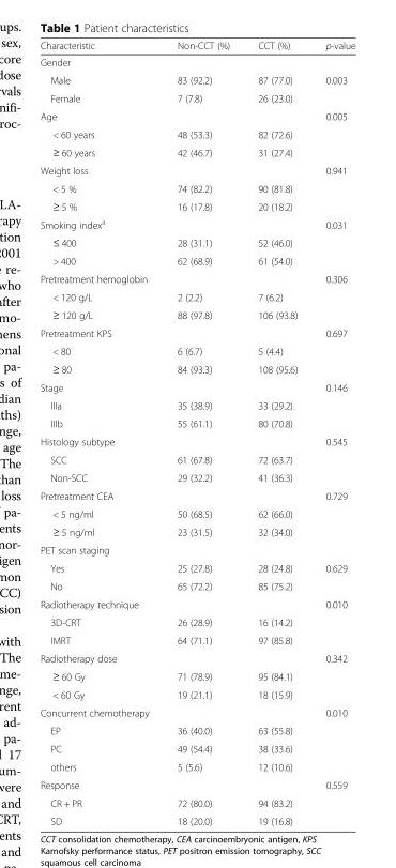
<table><thead><tr><td>Characteristic</td><td>Non-CCT (%)</td><td>CCT (%)</td><td>p-value</td></tr></thead><tbody><tr><td colspan="4">Gender</td></tr><tr><td>Male</td><td>83 (92.2)</td><td>87 (77.0)</td><td>0.003</td></tr><tr><td>Female</td><td>7 (7.8)</td><td>26 (23.0)</td><td></td></tr><tr><td>Age</td><td></td><td></td><td>0.005</td></tr><tr><td>&lt; 60 years</td><td>48 (53.3)</td><td>82 (72.6)</td><td></td></tr><tr><td>≥ 60 years</td><td>42 (46.7)</td><td>31 (27.4)</td><td></td></tr><tr><td>Weight loss</td><td></td><td></td><td>0.941</td></tr><tr><td>&lt; 5 %</td><td>74 (82.2)</td><td>90 (81.8)</td><td></td></tr><tr><td>≥ 5 %</td><td>16 (17.8)</td><td>20 (18.2)</td><td></td></tr><tr><td>Smoking index<sup>a</sup></td><td></td><td></td><td>0.031</td></tr><tr><td>≤ 400</td><td>28 (31.1)</td><td>52 (46.0)</td><td></td></tr><tr><td>&gt; 400</td><td>62 (68.9)</td><td>61 (54.0)</td><td></td></tr><tr><td>Pretreatment hemoglobin</td><td></td><td></td><td>0.306</td></tr><tr><td>&lt; 120 g/L</td><td>2 (2.2)</td><td>7 (6.2)</td><td></td></tr><tr><td>≥ 120 g/L</td><td>88 (97.8)</td><td>106 (93.8)</td><td></td></tr><tr><td>Pretreatment KPS</td><td></td><td></td><td>0.697</td></tr><tr><td>&lt; 80</td><td>6 (6.7)</td><td>5 (4.4)</td><td></td></tr><tr><td>≥ 80</td><td>84 (93.3)</td><td>108 (95.6)</td><td></td></tr><tr><td>Stage</td><td></td><td></td><td>0.146</td></tr><tr><td>IIIa</td><td>35 (38.9)</td><td>33 (29.2)</td><td></td></tr><tr><td>IIIb</td><td>55 (61.1)</td><td>80 (70.8)</td><td></td></tr><tr><td>Histology subtype</td><td></td><td></td><td>0.545</td></tr><tr><td>SCC</td><td>61 (67.8)</td><td>72 (63.7)</td><td></td></tr><tr><td>Non-SCC</td><td>29 (32.2)</td><td>41 (36.3)</td><td></td></tr><tr><td>Pretreatment CEA</td><td></td><td></td><td>0.729</td></tr><tr><td>&lt; 5 ng/ml</td><td>50 (68.5)</td><td>62 (66.0)</td><td></td></tr><tr><td>≥ 5 ng/ml</td><td>23 (31.5)</td><td>32 (34.0)</td><td></td></tr><tr><td colspan="4">PET scan staging</td></tr><tr><td>Yes</td><td>25 (27.8)</td><td>28 (24.8)</td><td>0.629</td></tr><tr><td>No</td><td>65 (72.2)</td><td>85 (75.2)</td><td></td></tr><tr><td>Radiotherapy technique</td><td></td><td></td><td>0.010</td></tr><tr><td>3D-CRT</td><td>26 (28.9)</td><td>16 (14.2)</td><td></td></tr><tr><td>IMRT</td><td>64 (71.1)</td><td>97 (85.8)</td><td></td></tr><tr><td>Radiotherapy dose</td><td></td><td></td><td>0.342</td></tr><tr><td>≥ 60 Gy</td><td>71 (78.9)</td><td>95 (84.1)</td><td></td></tr><tr><td>&lt; 60 Gy</td><td>19 (21.1)</td><td>18 (15.9)</td><td></td></tr><tr><td>Concurrent chemotherapy</td><td></td><td></td><td>0.010</td></tr><tr><td>EP</td><td>36 (40.0)</td><td>63 (55.8)</td><td></td></tr><tr><td>PC</td><td>49 (54.4)</td><td>38 (33.6)</td><td></td></tr><tr><td>others</td><td>5 (5.6)</td><td>12 (10.6)</td><td></td></tr><tr><td>Response</td><td></td><td></td><td>0.559</td></tr><tr><td>CR + PR</td><td>72 (80.0)</td><td>94 (83.2)</td><td></td></tr><tr><td>SD</td><td>18 (20.0)</td><td>19 (16.8)</td><td></td></tr></tbody></table>